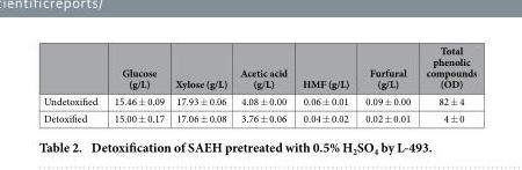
<table><thead><tr><td></td><td>Glucose (g/L)</td><td>Xylose (g/L)</td><td>Acetic acid (g/L)</td><td>HMF (g/L)</td><td>Furfural (g/L)</td><td>Total phenolic compounds (OD)</td></tr></thead><tbody><tr><td>Undetoxified</td><td>15.46 ± 0.09</td><td>17.93 ± 0.06</td><td>4.08 ± 0.00</td><td>0.06 ± 0.01</td><td>0.09 ± 0.00</td><td>82 ± 4</td></tr><tr><td>Detoxified</td><td>15.00 ± 0.17</td><td>17.06 ± 0.08</td><td>3.76 ± 0.06</td><td>0.04 ± 0.02</td><td>0.02 ± 0.01</td><td>4 ± 0</td></tr></tbody></table>